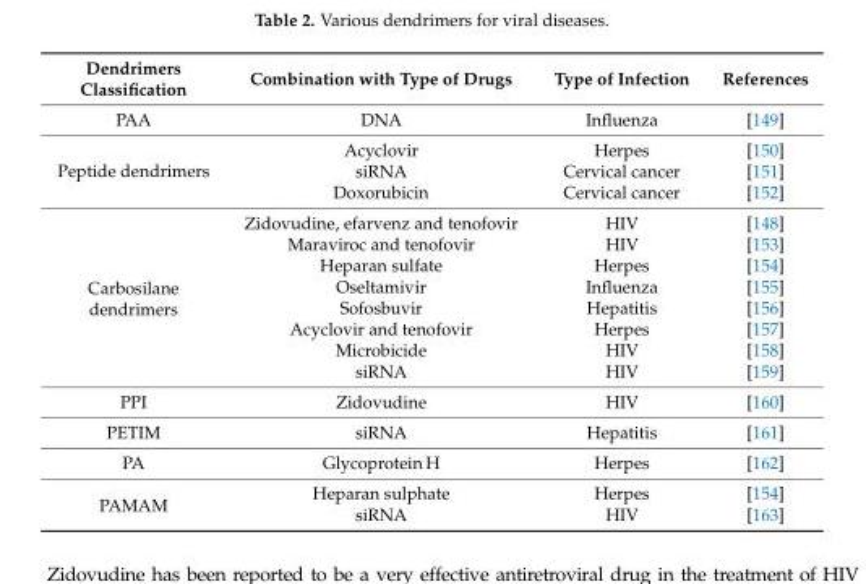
<table><thead><tr><td>Dendrimers Classification</td><td>Combination with Type of Drugs</td><td>Type of Infection</td><td>References</td></tr></thead><tbody><tr><td>PAA</td><td>DNA</td><td>Influenza</td><td>[149]</td></tr><tr><td rowspan="3">Peptide dendrimers</td><td>Acyclovir</td><td>Herpes</td><td>[150]</td></tr><tr><td>siRNA</td><td>Cervical cancer</td><td>[151]</td></tr><tr><td>Doxorubicin</td><td>Cervical cancer</td><td>[152]</td></tr><tr><td rowspan="8">Carbosilane dendrimers</td><td>Zidovudine, efarvenz and tenofovir</td><td>HIV</td><td>[148]</td></tr><tr><td>Maraviroc and tenofovir</td><td>HIV</td><td>[153]</td></tr><tr><td>Heparan sulfate</td><td>Herpes</td><td>[154]</td></tr><tr><td>Oseltamivir</td><td>Influenza</td><td>[155]</td></tr><tr><td>Sofosbuvir</td><td>Hepatitis</td><td>[156]</td></tr><tr><td>Acyclovir and tenofovir</td><td>Herpes</td><td>[157]</td></tr><tr><td>Microbicide</td><td>HIV</td><td>[158]</td></tr><tr><td>siRNA</td><td>HIV</td><td>[159]</td></tr><tr><td>PPI</td><td>Zidovudine</td><td>HIV</td><td>[160]</td></tr><tr><td>PETIM</td><td>siRNA</td><td>Hepatitis</td><td>[161]</td></tr><tr><td>PA</td><td>Glycoprotein H</td><td>Herpes</td><td>[162]</td></tr><tr><td rowspan="2">PAMAM</td><td>Heparan sulphate</td><td>Herpes</td><td>[154]</td></tr><tr><td>siRNA</td><td>HIV</td><td>[163]</td></tr></tbody></table>